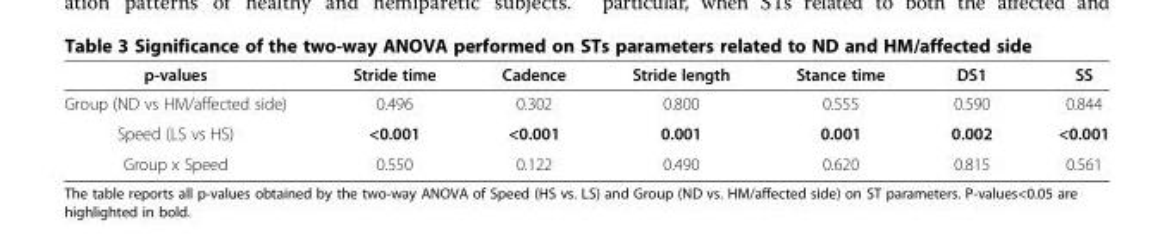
<table><thead><tr><td>p-values</td><td>Stride time</td><td>Cadence</td><td>Stride length</td><td>Stance time</td><td>DS1</td><td>SS</td></tr></thead><tbody><tr><td>Group (ND vs HM/affected side)</td><td>0.496</td><td>0.302</td><td>0.800</td><td>0.555</td><td>0.590</td><td>0.844</td></tr><tr><td>Speed (LS vs HS)</td><td>&lt;0.001</td><td>&lt;0.001</td><td>0.001</td><td>0.001</td><td>0.002</td><td>&lt;0.001</td></tr><tr><td>Group x Speed</td><td>0.550</td><td>0.122</td><td>0.490</td><td>0.620</td><td>0.815</td><td>0.561</td></tr></tbody></table>